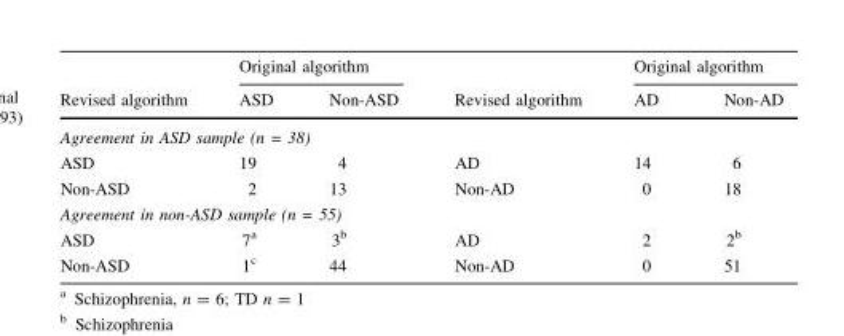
<table><thead><tr><td rowspan="2">Revised algorithm</td><td colspan="2">Original algorithm</td><td rowspan="2">Revised algorithm</td><td colspan="2">Original algorithm</td></tr><tr><td>ASD</td><td>Non-ASD</td><td>AD</td><td>Non-AD</td></tr></thead><tbody><tr><td colspan="6">Agreement in ASD sample (n = 38)</td></tr><tr><td>ASD</td><td>19</td><td>4</td><td>AD</td><td>14</td><td>6</td></tr><tr><td>Non-ASD</td><td>2</td><td>13</td><td>Non-AD</td><td>0</td><td>18</td></tr><tr><td colspan="6">Agreement in non-ASD sample (n = 55)</td></tr><tr><td>ASD</td><td>7<sup>a</sup></td><td>3<sup>b</sup></td><td>AD</td><td>2</td><td>2<sup>b</sup></td></tr><tr><td>Non-ASD</td><td>1<sup>c</sup></td><td>44</td><td>Non-AD</td><td>0</td><td>51</td></tr></tbody></table>